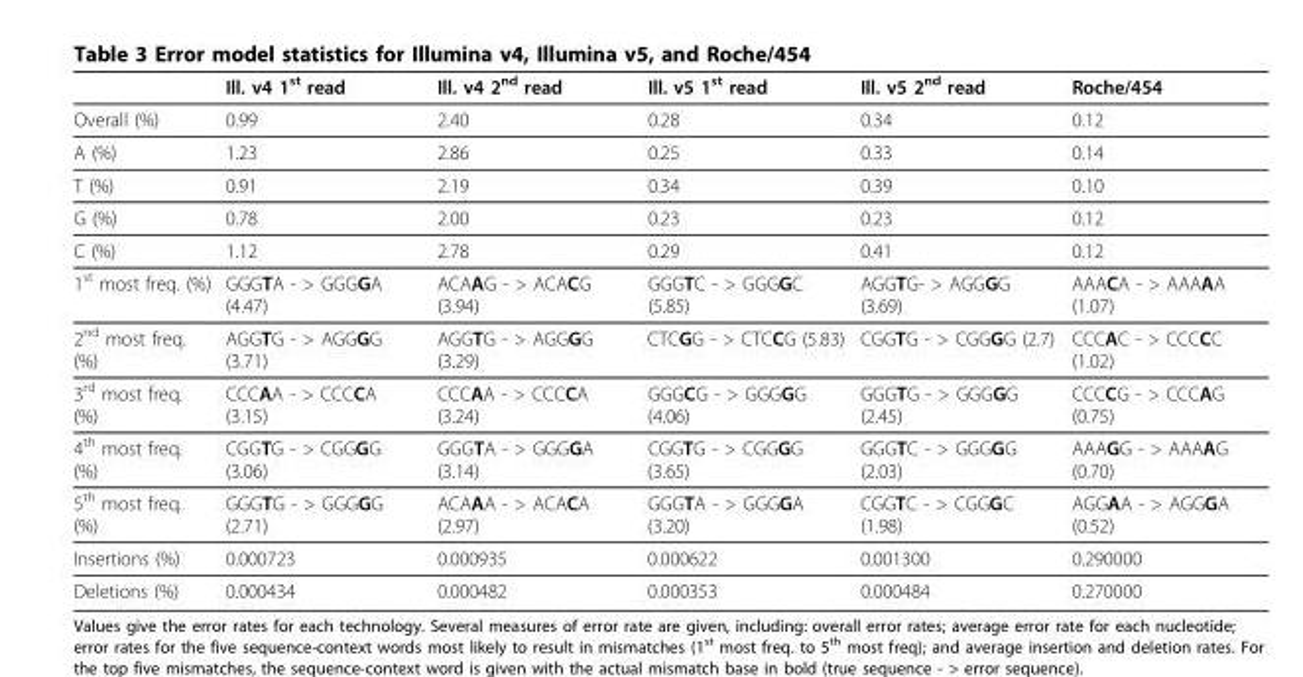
<table><thead><tr><td></td><td>Ill. v4 1<sup>st</sup> read</td><td>Ill. v4 2<sup>nd</sup> read</td><td>Ill. v5 1<sup>st</sup> read</td><td>Ill. v5 2<sup>nd</sup> read</td><td>Roche/454</td></tr></thead><tbody><tr><td>Overall (%)</td><td>0.99</td><td>2.40</td><td>0.28</td><td>0.34</td><td>0.12</td></tr><tr><td>A (%)</td><td>1.23</td><td>2.86</td><td>0.25</td><td>0.33</td><td>0.14</td></tr><tr><td>T (%)</td><td>0.91</td><td>2.19</td><td>0.34</td><td>0.39</td><td>0.10</td></tr><tr><td>G (%)</td><td>0.78</td><td>2.00</td><td>0.23</td><td>0.23</td><td>0.12</td></tr><tr><td>C (%)</td><td>1.12</td><td>2.78</td><td>0.29</td><td>0.41</td><td>0.12</td></tr><tr><td>1<sup>st</sup> most freq. (%)</td><td>GGGTA - &gt; GGGGA (4.47)</td><td>ACAAG - &gt; ACACG (3.94)</td><td>GGGTC - &gt; GGGGC (5.85)</td><td>AGGTG- &gt; AGGGG (3.69)</td><td>AAACA - &gt; AAAAA (1.07)</td></tr><tr><td>2<sup>nd</sup> most freq. (%)</td><td>AGGTG - &gt; AGGGG (3.71)</td><td>AGGTG - &gt; AGGGG (3.29)</td><td>CTCGG - &gt; CTCCG (5.83)</td><td>CGGTG - &gt; CGGGG (2.7)</td><td>CCCAC - &gt; CCCCC (1.02)</td></tr><tr><td>3<sup>rd</sup> most freq. (%)</td><td>CCCAA - &gt; CCCCA (3.15)</td><td>CCCAA - &gt; CCCCA (3.24)</td><td>GGGCG - &gt; GGGGG (4.06)</td><td>GGGTG - &gt; GGGGG (2.45)</td><td>CCCCG - &gt; CCCAG (0.75)</td></tr><tr><td>4<sup>th</sup> most freq. (%)</td><td>CGGTG - &gt; CGGGG (3.06)</td><td>GGGTA - &gt; GGGGA (3.14)</td><td>CGGTG - &gt; CGGGG (3.65)</td><td>GGGTC - &gt; GGGGG (2.03)</td><td>AAAGG - &gt; AAAAG (0.70)</td></tr><tr><td>5<sup>th</sup> most freq. (%)</td><td>GGGTG - &gt; GGGGG (2.71)</td><td>ACAAA - &gt; ACACA (2.97)</td><td>GGGTA - &gt; GGGGA (3.20)</td><td>CGGTC - &gt; CGGGC (1.98)</td><td>AGGAA - &gt; AGGGA (0.52)</td></tr><tr><td>Insertions (%)</td><td>0.000723</td><td>0.000935</td><td>0.000622</td><td>0.001300</td><td>0.290000</td></tr><tr><td>Deletions (%)</td><td>0.000434</td><td>0.000482</td><td>0.000353</td><td>0.000484</td><td>0.270000</td></tr></tbody></table>